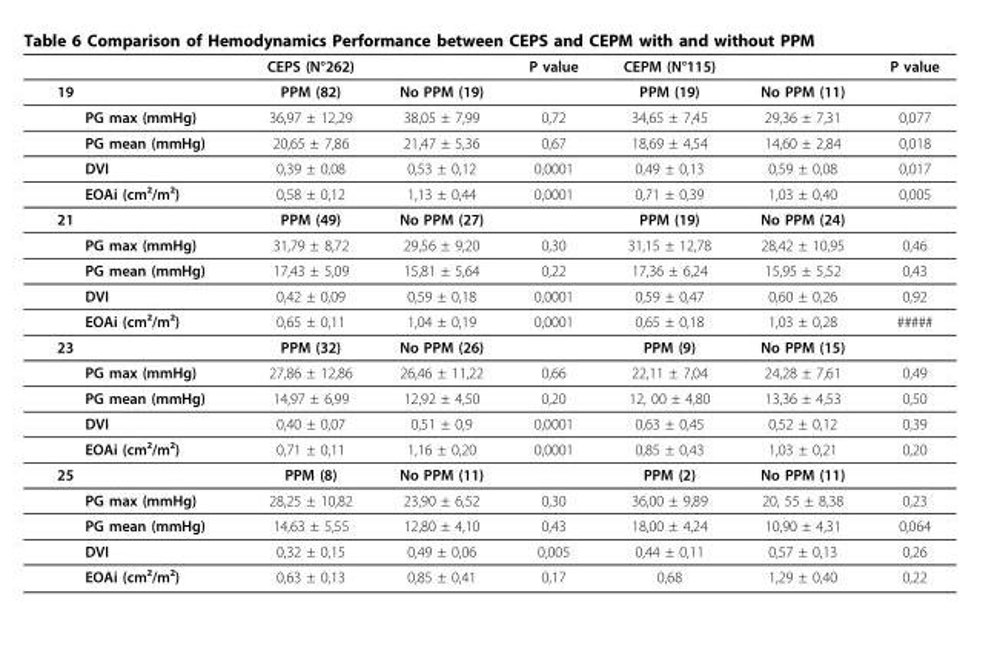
<table><thead><tr><td></td><td></td><td>CEPS (N°262)</td><td></td><td>P value</td><td>CEPM (N°115)</td><td></td><td>P value</td></tr></thead><tbody><tr><td rowspan="5">19</td><td></td><td>PPM (82)</td><td>No PPM (19)</td><td></td><td>PPM (19)</td><td>No PPM (11)</td><td></td></tr><tr><td>PG max (mmHg)</td><td>36,97 ± 12,29</td><td>38,05 ± 7,99</td><td>0,72</td><td>34,65 ± 7,45</td><td>29,36 ± 7,31</td><td>0,077</td></tr><tr><td>PG mean (mmHg)</td><td>20,65 ± 7,86</td><td>21,47 ± 5,36</td><td>0,67</td><td>18,69 ± 4,54</td><td>14,60 ± 2,84</td><td>0,018</td></tr><tr><td>DVI</td><td>0,39 ± 0,08</td><td>0,53 ± 0,12</td><td>0,0001</td><td>0,49 ± 0,13</td><td>0,59 ± 0,08</td><td>0,017</td></tr><tr><td>EOAi (cm²/m²)</td><td>0,58 ± 0,12</td><td>1,13 ± 0,44</td><td>0,0001</td><td>0,71 ± 0,39</td><td>1,03 ± 0,40</td><td>0,005</td></tr><tr><td rowspan="5">21</td><td></td><td>PPM (49)</td><td>No PPM (27)</td><td></td><td>PPM (19)</td><td>No PPM (24)</td><td></td></tr><tr><td>PG max (mmHg)</td><td>31,79 ± 8,72</td><td>29,56 ± 9,20</td><td>0,30</td><td>31,15 ± 12,78</td><td>28,42 ± 10,95</td><td>0,46</td></tr><tr><td>PG mean (mmHg)</td><td>17,43 ± 5,09</td><td>15,81 ± 5,64</td><td>0,22</td><td>17,36 ± 6,24</td><td>15,95 ± 5,52</td><td>0,43</td></tr><tr><td>DVI</td><td>0,42 ± 0,09</td><td>0,59 ± 0,18</td><td>0,0001</td><td>0,59 ± 0,47</td><td>0,60 ± 0,26</td><td>0,92</td></tr><tr><td>EOAi (cm²/m²)</td><td>0,65 ± 0,11</td><td>1,04 ± 0,19</td><td>0,0001</td><td>0,65 ± 0,18</td><td>1,03 ± 0,28</td><td>#####</td></tr><tr><td rowspan="5">23</td><td></td><td>PPM (32)</td><td>No PPM (26)</td><td></td><td>PPM (9)</td><td>No PPM (15)</td><td></td></tr><tr><td>PG max (mmHg)</td><td>27,86 ± 12,86</td><td>26,46 ± 11,22</td><td>0,66</td><td>22,11 ± 7,04</td><td>24,28 ± 7,61</td><td>0,49</td></tr><tr><td>PG mean (mmHg)</td><td>14,97 ± 6,99</td><td>12,92 ± 4,50</td><td>0,20</td><td>12, 00 ± 4,80</td><td>13,36 ± 4,53</td><td>0,50</td></tr><tr><td>DVI</td><td>0,40 ± 0,07</td><td>0,51 ± 0,9</td><td>0,0001</td><td>0,63 ± 0,45</td><td>0,52 ± 0,12</td><td>0,39</td></tr><tr><td>EOAi (cm²/m²)</td><td>0,71 ± 0,11</td><td>1,16 ± 0,20</td><td>0,0001</td><td>0,85 ± 0,43</td><td>1,03 ± 0,21</td><td>0,20</td></tr><tr><td rowspan="5">25</td><td></td><td>PPM (8)</td><td>No PPM (11)</td><td></td><td>PPM (2)</td><td>No PPM (11)</td><td></td></tr><tr><td>PG max (mmHg)</td><td>28,25 ± 10,82</td><td>23,90 ± 6,52</td><td>0,30</td><td>36,00 ± 9,89</td><td>20, 55 ± 8,38</td><td>0,23</td></tr><tr><td>PG mean (mmHg)</td><td>14,63 ± 5,55</td><td>12,80 ± 4,10</td><td>0,43</td><td>18,00 ± 4,24</td><td>10,90 ± 4,31</td><td>0,064</td></tr><tr><td>DVI</td><td>0,32 ± 0,15</td><td>0,49 ± 0,06</td><td>0,005</td><td>0,44 ± 0,11</td><td>0,57 ± 0,13</td><td>0,26</td></tr><tr><td>EOAi (cm²/m²)</td><td>0,63 ± 0,13</td><td>0,85 ± 0,41</td><td>0,17</td><td>0,68</td><td>1,29 ± 0,40</td><td>0,22</td></tr></tbody></table>